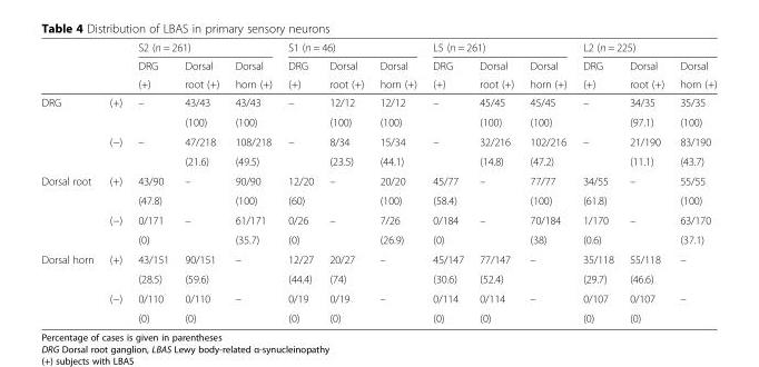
<table><thead><tr><td rowspan="3"></td><td rowspan="3"></td><td colspan="3">S2 (n = 261)</td><td colspan="3">S1 (n = 46)</td><td colspan="3">L5 (n = 261)</td><td colspan="3">L2 (n = 225)</td></tr><tr><td rowspan="2">DRG (+)</td><td rowspan="2">Dorsal root (+)</td><td rowspan="2">Dorsal horn (+)</td><td rowspan="2">DRG (+)</td><td rowspan="2">Dorsal root (+)</td><td rowspan="2">Dorsal horn (+)</td><td rowspan="2">DRG (+)</td><td rowspan="2">Dorsal root (+)</td><td rowspan="2">Dorsal horn (+)</td><td rowspan="2">DRG (+)</td><td rowspan="2">Dorsal root (+)</td><td rowspan="2">Dorsal horn (+)</td></tr><tr></tr></thead><tbody><tr><td rowspan="4">DRG</td><td rowspan="2">(+)</td><td rowspan="2">–</td><td>43/43</td><td>43/43</td><td rowspan="2">–</td><td>12/12</td><td>12/12</td><td rowspan="2">–</td><td>45/45</td><td>45/45</td><td rowspan="2">–</td><td>34/35</td><td>35/35</td></tr><tr><td>(100)</td><td>(100)</td><td>(100)</td><td>(100)</td><td>(100)</td><td>(100)</td><td>(97.1)</td><td>(100)</td></tr><tr><td rowspan="2">(−)</td><td rowspan="2">–</td><td>47/218</td><td>108/218</td><td rowspan="2">–</td><td>8/34</td><td>15/34</td><td rowspan="2">–</td><td>32/216</td><td>102/216</td><td rowspan="2">–</td><td>21/190</td><td>83/190</td></tr><tr><td>(21.6)</td><td>(49.5)</td><td>(23.5)</td><td>(44.1)</td><td>(14.8)</td><td>(47.2)</td><td>(11.1)</td><td>(43.7)</td></tr><tr><td rowspan="4">Dorsal root</td><td rowspan="2">(+)</td><td>43/90</td><td rowspan="2">–</td><td>90/90</td><td>12/20</td><td rowspan="2">–</td><td>20/20</td><td>45/77</td><td rowspan="2">–</td><td>77/77</td><td>34/55</td><td rowspan="2">–</td><td>55/55</td></tr><tr><td>(47.8)</td><td>(100)</td><td>(60)</td><td>(100)</td><td>(58.4)</td><td>(100)</td><td>(61.8)</td><td>(100)</td></tr><tr><td rowspan="2">(−)</td><td>0/171</td><td rowspan="2">–</td><td>61/171</td><td>0/26</td><td rowspan="2">–</td><td>7/26</td><td>0/184</td><td rowspan="2">–</td><td>70/184</td><td>1/170</td><td rowspan="2">–</td><td>63/170</td></tr><tr><td>(0)</td><td>(35.7)</td><td>(0)</td><td>(26.9)</td><td>(0)</td><td>(38)</td><td>(0.6)</td><td>(37.1)</td></tr><tr><td rowspan="4">Dorsal horn</td><td rowspan="2">(+)</td><td>43/151</td><td>90/151</td><td rowspan="2">–</td><td>12/27</td><td>20/27</td><td rowspan="2">–</td><td>45/147</td><td>77/147</td><td rowspan="2">–</td><td>35/118</td><td>55/118</td><td rowspan="2">–</td></tr><tr><td>(28.5)</td><td>(59.6)</td><td>(44.4)</td><td>(74)</td><td>(30.6)</td><td>(52.4)</td><td>(29.7)</td><td>(46.6)</td></tr><tr><td rowspan="2">(−)</td><td>0/110</td><td>0/110</td><td rowspan="2">–</td><td>0/19</td><td>0/19</td><td rowspan="2">–</td><td>0/114</td><td>0/114</td><td rowspan="2">–</td><td>0/107</td><td>0/107</td><td rowspan="2">–</td></tr><tr><td>(0)</td><td>(0)</td><td>(0)</td><td>(0)</td><td>(0)</td><td>(0)</td><td>(0)</td><td>(0)</td></tr></tbody></table>